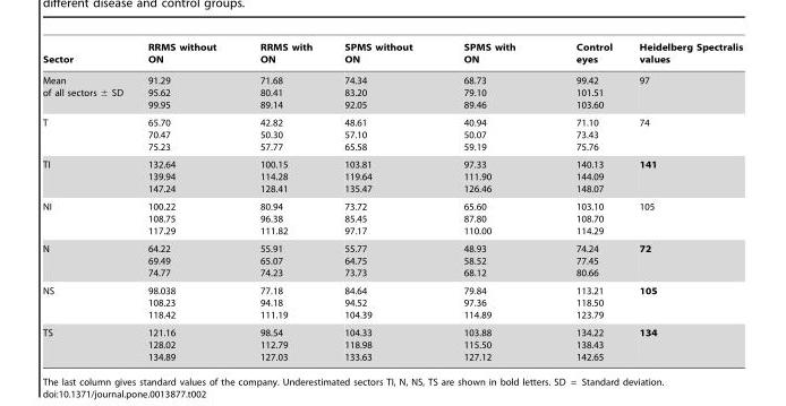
<table><thead><tr><td>Sector</td><td>RRMS without ON</td><td>RRMS with ON</td><td>SPMS without ON</td><td>SPMS with ON</td><td>Control eyes</td><td>Heidelberg Spectralis values</td></tr></thead><tbody><tr><td>Mean of all sectors ± SD</td><td>91.29 95.62 99.95</td><td>71.68 80.41 89.14</td><td>74.34 83.20 92.05</td><td>68.73 79.10 89.46</td><td>99.42 101.51 103.60</td><td>97</td></tr><tr><td>T</td><td>65.70 70.47 75.23</td><td>42.82 50.30 57.77</td><td>48.61 57.10 65.58</td><td>40.94 50.07 59.19</td><td>71.10 73.43 75.76</td><td>74</td></tr><tr><td>TI</td><td>132.64 139.94 147.24</td><td>100.15 114.28 128.41</td><td>103.81 119.64 135.47</td><td>97.33 111.90 126.46</td><td>140.13 144.09 148.07</td><td>141</td></tr><tr><td>NI</td><td>100.22 108.75 117.29</td><td>80.94 96.38 111.82</td><td>73.72 85.45 97.17</td><td>65.60 87.80 110.00</td><td>103.10 108.70 114.29</td><td>105</td></tr><tr><td>N</td><td>64.22 69.49 74.77</td><td>55.91 65.07 74.23</td><td>55.77 64.75 73.73</td><td>48.93 58.52 68.12</td><td>74.24 77.45 80.66</td><td>72</td></tr><tr><td>NS</td><td>98.038 108.23 118.42</td><td>77.18 94.18 111.19</td><td>84.64 94.52 104.39</td><td>79.84 97.36 114.89</td><td>113.21 118.50 123.79</td><td>105</td></tr><tr><td>TS</td><td>121.16 128.02 134.89</td><td>98.54 112.79 127.03</td><td>104.33 118.98 133.63</td><td>103.88 115.50 127.12</td><td>134.22 138.43 142.65</td><td>134</td></tr></tbody></table>